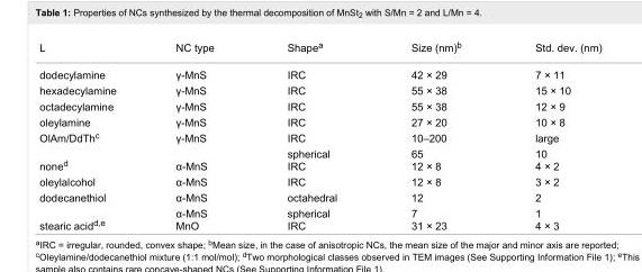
<table><tbody><tr><td>L</td><td>NC type</td><td>Shape<sup>a</sup></td><td>Size (nm)b</td><td>Std. dev. (nm)</td></tr><tr><td>dodecylamine</td><td>γ-MnS</td><td>IRC</td><td>42 × 29</td><td>7 × 11</td></tr><tr><td>hexadecylamine</td><td>γ-MnS</td><td>IRC</td><td>55 × 38</td><td>15 × 10</td></tr><tr><td>octadecylamine</td><td>γ-MnS</td><td>IRC</td><td>55 × 38</td><td>12 × 9</td></tr><tr><td>oleylamine</td><td>γ-MnS</td><td>IRC</td><td>27 × 20</td><td>10 × 8</td></tr><tr><td>OlAm/DdTh<sup>c</sup></td><td>γ-MnS</td><td>IRC</td><td>10–200</td><td>large</td></tr><tr><td>none<sup>d</sup></td><td>α-MnS</td><td>spherical IRC</td><td>65 12 × 8</td><td>10 4 × 2</td></tr><tr><td>oleylalcohol</td><td>α-MnS</td><td>IRC</td><td>12 × 8</td><td>3 × 2</td></tr><tr><td>dodecanethiol</td><td>α-MnS</td><td>octahedral</td><td>12</td><td>2</td></tr><tr><td>stearic acid<sup>d,e</sup></td><td>α-MnS MnO</td><td>spherical IRC</td><td>7 31 × 23</td><td>1 4 × 3</td></tr></tbody></table>